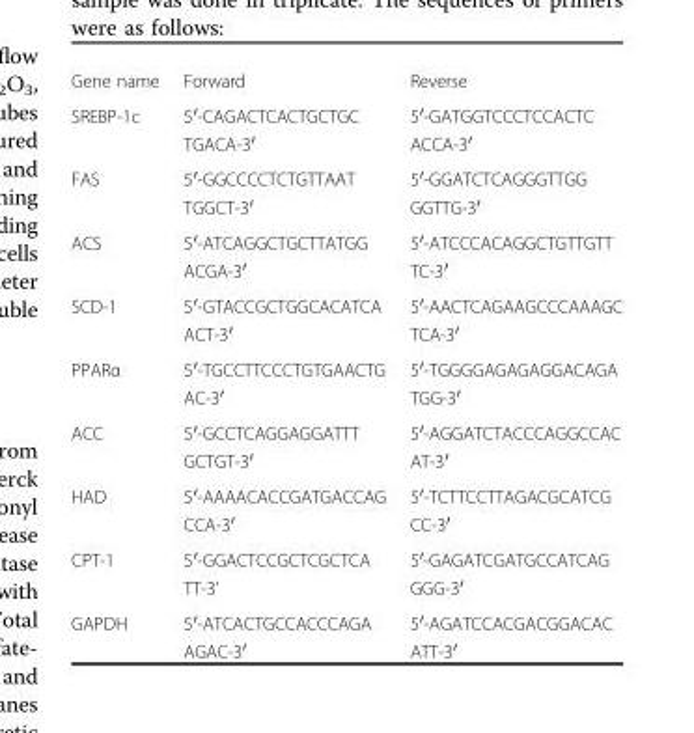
<table><tbody><tr><td>Gene name</td><td>Forward</td><td>Reverse</td></tr><tr><td>SREBP-1c</td><td>5′-CAGACTCACTGCTGC TGACA-3′</td><td>5′-GATGGTCCCTCCACTC ACCA-3′</td></tr><tr><td>FAS</td><td>5′-GGCCCCTCTGTTAAT TGGCT-3′</td><td>5′-GGATCTCAGGGTTGG GGTTG-3′</td></tr><tr><td>ACS</td><td>5′-ATCAGGCTGCTTATGG ACGA-3′</td><td>5′-ATCCCACAGGCTGTTGTT TC-3′</td></tr><tr><td>SCD-1</td><td>5′-GTACCGCTGGCACATCA ACT-3′</td><td>5′-AACTCAGAAGCCCAAAGC TCA-3′</td></tr><tr><td>PPARα</td><td>5′-TGCCTTCCCTGTGAACTG AC-3′</td><td>5′-TGGGGAGAGAGGACAGA TGG-3′</td></tr><tr><td>ACC</td><td>5′-GCCTCAGGAGGATTT GCTGT-3′</td><td>5′-AGGATCTACCCAGGCCAC AT-3′</td></tr><tr><td>HAD</td><td>5′-AAAACACCGATGACCAG CCA-3′</td><td>5′-TCTTCCTTAGACGCATCG CC-3′</td></tr><tr><td>CPT-1</td><td>5′-GGACTCCGCTCGCTCA TT-3’</td><td>5′-GAGATCGATGCCATCAG GGG-3′</td></tr><tr><td>GAPDH</td><td>5′-ATCACTGCCACCCAGA AGAC-3′</td><td>5′-AGATCCACGACGGACAC ATT-3′</td></tr></tbody></table>